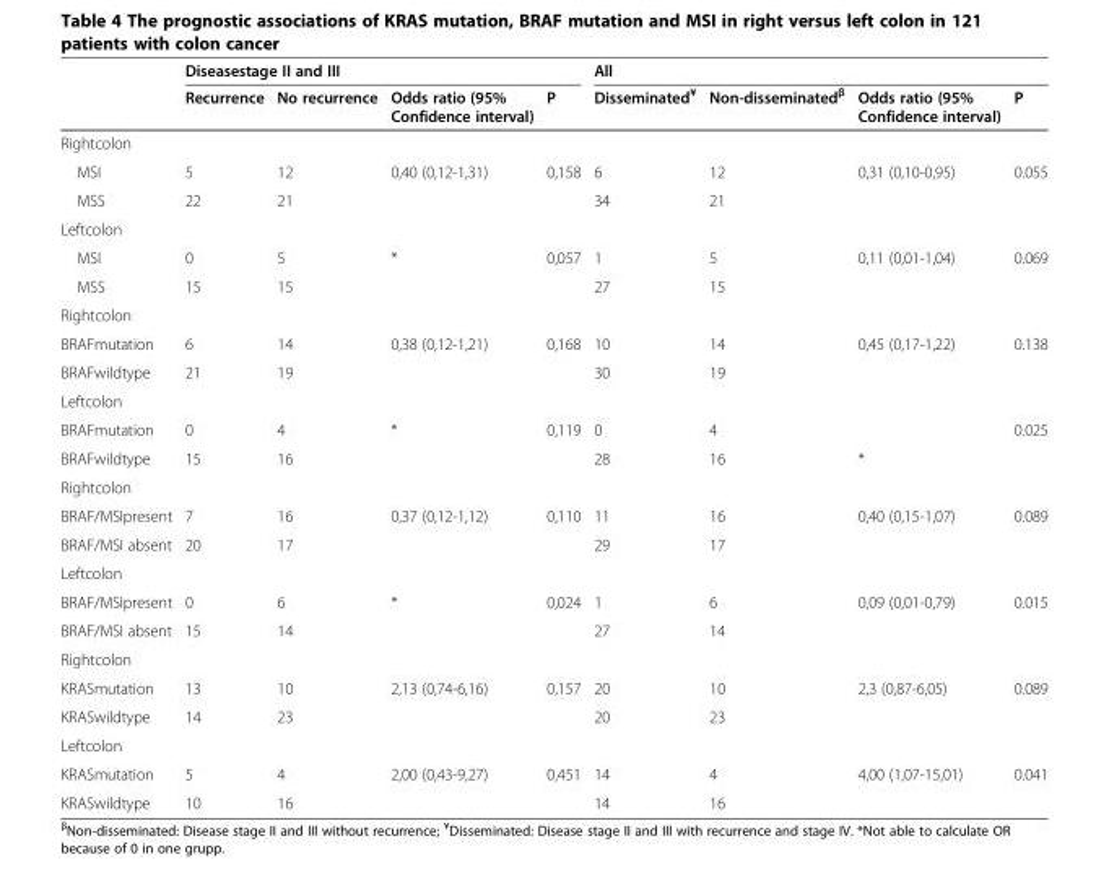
<table><thead><tr><td rowspan="2"></td><td colspan="4">Diseasestage II and III</td><td colspan="4">All</td></tr><tr><td>Recurrence</td><td>No recurrence</td><td>Odds ratio (95% Confidence interval)</td><td>P</td><td>Disseminated<sup>¥</sup></td><td>Non-disseminated<sup>β</sup></td><td>Odds ratio (95% Confidence interval)</td><td>P</td></tr></thead><tbody><tr><td colspan="9">Rightcolon</td></tr><tr><td>MSI</td><td>5</td><td>12</td><td>0,40 (0,12-1,31)</td><td>0,158</td><td>6</td><td>12</td><td>0,31 (0,10-0,95)</td><td>0.055</td></tr><tr><td>MSS</td><td>22</td><td>21</td><td></td><td></td><td>34</td><td>21</td><td></td><td></td></tr><tr><td colspan="9">Leftcolon</td></tr><tr><td>MSI</td><td>0</td><td>5</td><td>*</td><td>0,057</td><td>1</td><td>5</td><td>0,11 (0,01-1,04)</td><td>0.069</td></tr><tr><td>MSS</td><td>15</td><td>15</td><td></td><td></td><td>27</td><td>15</td><td></td><td></td></tr><tr><td colspan="9">Rightcolon</td></tr><tr><td>BRAFmutation</td><td>6</td><td>14</td><td>0,38 (0,12-1,21)</td><td>0,168</td><td>10</td><td>14</td><td>0,45 (0,17-1,22)</td><td>0.138</td></tr><tr><td>BRAFwildtype</td><td>21</td><td>19</td><td></td><td></td><td>30</td><td>19</td><td></td><td></td></tr><tr><td colspan="9">Leftcolon</td></tr><tr><td>BRAFmutation</td><td>0</td><td>4</td><td>*</td><td>0,119</td><td>0</td><td>4</td><td></td><td>0.025</td></tr><tr><td>BRAFwildtype</td><td>15</td><td>16</td><td></td><td></td><td>28</td><td>16</td><td>*</td><td></td></tr><tr><td colspan="9">Rightcolon</td></tr><tr><td>BRAF/MSIpresent</td><td>7</td><td>16</td><td>0,37 (0,12-1,12)</td><td>0,110</td><td>11</td><td>16</td><td>0,40 (0,15-1,07)</td><td>0.089</td></tr><tr><td>BRAF/MSI absent</td><td>20</td><td>17</td><td></td><td></td><td>29</td><td>17</td><td></td><td></td></tr><tr><td colspan="9">Leftcolon</td></tr><tr><td>BRAF/MSIpresent</td><td>0</td><td>6</td><td>*</td><td>0,024</td><td>1</td><td>6</td><td>0,09 (0,01-0,79)</td><td>0.015</td></tr><tr><td>BRAF/MSI absent</td><td>15</td><td>14</td><td></td><td></td><td>27</td><td>14</td><td></td><td></td></tr><tr><td colspan="9">Rightcolon</td></tr><tr><td>KRASmutation</td><td>13</td><td>10</td><td>2,13 (0,74-6,16)</td><td>0,157</td><td>20</td><td>10</td><td>2,3 (0,87-6,05)</td><td>0.089</td></tr><tr><td>KRASwildtype</td><td>14</td><td>23</td><td></td><td></td><td>20</td><td>23</td><td></td><td></td></tr><tr><td colspan="9">Leftcolon</td></tr><tr><td>KRASmutation</td><td>5</td><td>4</td><td>2,00 (0,43-9,27)</td><td>0,451</td><td>14</td><td>4</td><td>4,00 (1,07-15,01)</td><td>0.041</td></tr><tr><td>KRASwildtype</td><td>10</td><td>16</td><td></td><td></td><td>14</td><td>16</td><td></td><td></td></tr></tbody></table>